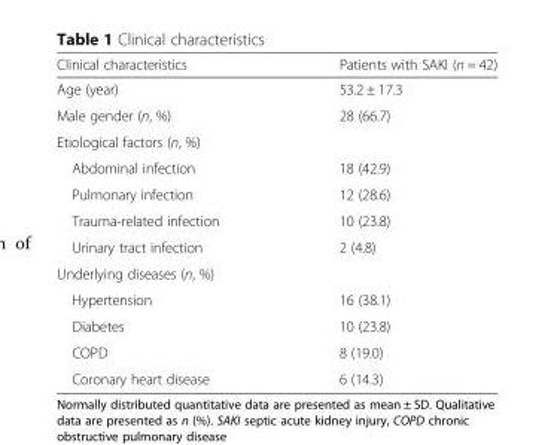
<table><thead><tr><td>Clinical characteristics</td><td>Patients with SAKI (n = 42)</td></tr></thead><tbody><tr><td>Age (year)</td><td>53.2 ± 17.3</td></tr><tr><td>Male gender (n, %)</td><td>28 (66.7)</td></tr><tr><td colspan="2">Etiological factors (n, %)</td></tr><tr><td>Abdominal infection</td><td>18 (42.9)</td></tr><tr><td>Pulmonary infection</td><td>12 (28.6)</td></tr><tr><td>Trauma-related infection</td><td>10 (23.8)</td></tr><tr><td>Urinary tract infection</td><td>2 (4.8)</td></tr><tr><td colspan="2">Underlying diseases (n, %)</td></tr><tr><td>Hypertension</td><td>16 (38.1)</td></tr><tr><td>Diabetes</td><td>10 (23.8)</td></tr><tr><td>COPD</td><td>8 (19.0)</td></tr><tr><td>Coronary heart disease</td><td>6 (14.3)</td></tr></tbody></table>